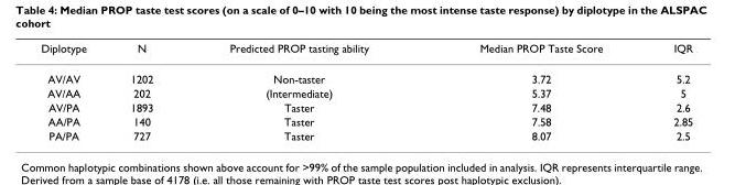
<table><thead><tr><td>Diplotype</td><td>N</td><td>Predicted PROP tasting ability</td><td>Median PROP Taste Score</td><td>IQR</td></tr></thead><tbody><tr><td>AV/AV</td><td>1202</td><td>Non-taster</td><td>3.72</td><td>5.2</td></tr><tr><td>AV/AA</td><td>202</td><td>(Intermediate)</td><td>5.37</td><td>5</td></tr><tr><td>AV/PA</td><td>1893</td><td>Taster</td><td>7.48</td><td>2.6</td></tr><tr><td>AA/PA</td><td>140</td><td>Taster</td><td>7.58</td><td>2.85</td></tr><tr><td>PA/PA</td><td>727</td><td>Taster</td><td>8.07</td><td>2.5</td></tr></tbody></table>